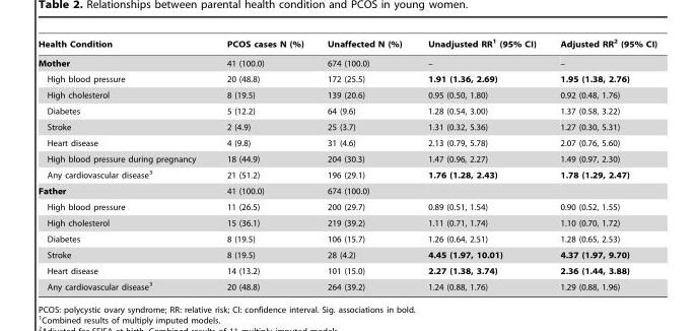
<table><thead><tr><td>Health Condition</td><td>PCOS cases N (%)</td><td>Unaffected N (%)</td><td>Unadjusted RR<sup>1</sup> (95% CI)</td><td>Adjusted RR<sup>2</sup> (95% CI)</td></tr></thead><tbody><tr><td>Mother</td><td>41 (100.0)</td><td>674 (100.0)</td><td>–</td><td>–</td></tr><tr><td>High blood pressure</td><td>20 (48.8)</td><td>172 (25.5)</td><td>1.91 (1.36, 2.69)</td><td>1.95 (1.38, 2.76)</td></tr><tr><td>High cholesterol</td><td>8 (19.5)</td><td>139 (20.6)</td><td>0.95 (0.50, 1.80)</td><td>0.92 (0.48, 1.76)</td></tr><tr><td>Diabetes</td><td>5 (12.2)</td><td>64 (9.6)</td><td>1.28 (0.54, 3.00)</td><td>1.37 (0.58, 3.22)</td></tr><tr><td>Stroke</td><td>2 (4.9)</td><td>25 (3.7)</td><td>1.31 (0.32, 5.36)</td><td>1.27 (0.30, 5.31)</td></tr><tr><td>Heart disease</td><td>4 (9.8)</td><td>31 (4.6)</td><td>2.13 (0.79, 5.78)</td><td>2.07 (0.76, 5.60)</td></tr><tr><td>High blood pressure during pregnancy</td><td>18 (44.9)</td><td>204 (30.3)</td><td>1.47 (0.96, 2.27)</td><td>1.49 (0.97, 2.30)</td></tr><tr><td>Any cardiovascular disease<sup>3</sup></td><td>21 (51.2)</td><td>196 (29.1)</td><td>1.76 (1.28, 2.43)</td><td>1.78 (1.29, 2.47)</td></tr><tr><td>Father</td><td>41 (100.0)</td><td>674 (100.0)</td><td></td><td></td></tr><tr><td>High blood pressure</td><td>11 (26.5)</td><td>200 (29.7)</td><td>0.89 (0.51, 1.54)</td><td>0.90 (0.52, 1.55)</td></tr><tr><td>High cholesterol</td><td>15 (36.1)</td><td>219 (39.2)</td><td>1.11 (0.71, 1.74)</td><td>1.10 (0.70, 1.72)</td></tr><tr><td>Diabetes</td><td>8 (19.5)</td><td>106 (15.7)</td><td>1.26 (0.64, 2.51)</td><td>1.28 (0.65, 2.53)</td></tr><tr><td>Stroke</td><td>8 (19.5)</td><td>28 (4.2)</td><td>4.45 (1.97, 10.01)</td><td>4.37 (1.97, 9.70)</td></tr><tr><td>Heart disease</td><td>14 (13.2)</td><td>101 (15.0)</td><td>2.27 (1.38, 3.74)</td><td>2.36 (1.44, 3.88)</td></tr><tr><td>Any cardiovascular disease<sup>3</sup></td><td>20 (48.8)</td><td>264 (39.2)</td><td>1.24 (0.88, 1.76)</td><td>1.29 (0.88, 1.96)</td></tr></tbody></table>